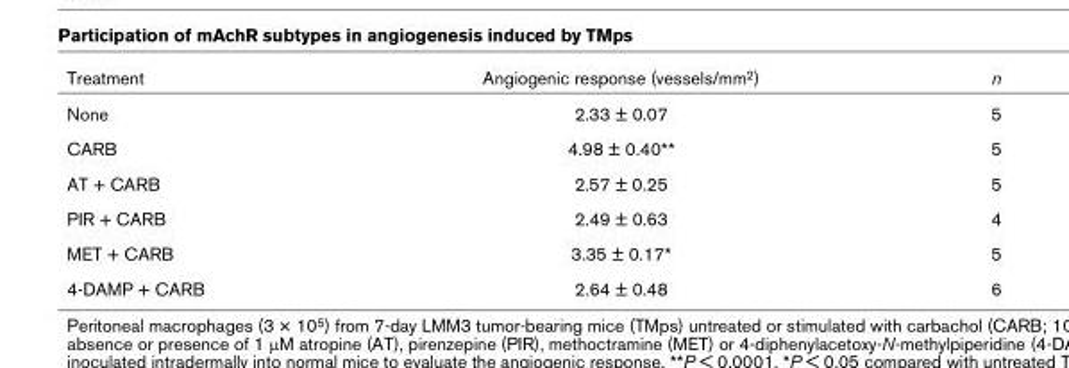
<table><thead><tr><td>Treatment</td><td>Angiogenic response (vessels/mm2)</td><td>n</td></tr></thead><tbody><tr><td>None</td><td>2.33 ± 0.07</td><td>5</td></tr><tr><td>CARB</td><td>4.98 ± 0.40**</td><td>5</td></tr><tr><td>AT + CARB</td><td>2.57 ± 0.25</td><td>5</td></tr><tr><td>PIR + CARB</td><td>2.49 ± 0.63</td><td>4</td></tr><tr><td>MET + CARB</td><td>3.35 ± 0.17*</td><td>5</td></tr><tr><td>4-DAMP + CARB</td><td>2.64 ± 0.48</td><td>6</td></tr></tbody></table>